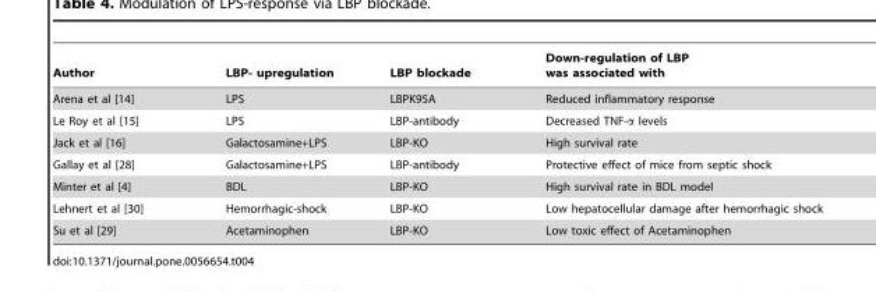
<table><thead><tr><td>Author</td><td>LBP- upregulation</td><td>LBP blockade</td><td>Down-regulation of LBP was associated with</td></tr></thead><tbody><tr><td>Arena et al [14]</td><td>LPS</td><td>LBPK95A</td><td>Reduced inflammatory response</td></tr><tr><td>Le Roy et al [15]</td><td>LPS</td><td>LBP-antibody</td><td>Decreased TNF-α levels</td></tr><tr><td>Jack et al [16]</td><td>Galactosamine+LPS</td><td>LBP-KO</td><td>High survival rate</td></tr><tr><td>Gallay et al [28]</td><td>Galactosamine+LPS</td><td>LBP-antibody</td><td>Protective effect of mice from septic shock</td></tr><tr><td>Minter et al [4]</td><td>BDL</td><td>LBP-KO</td><td>High survival rate in BDL model</td></tr><tr><td>Lehnert et al [30]</td><td>Hemorrhagic-shock</td><td>LBP-KO</td><td>Low hepatocellular damage after hemorrhagic shock</td></tr><tr><td>Su et al [29]</td><td>Acetaminophen</td><td>LBP-KO</td><td>Low toxic effect of Acetaminophen</td></tr></tbody></table>